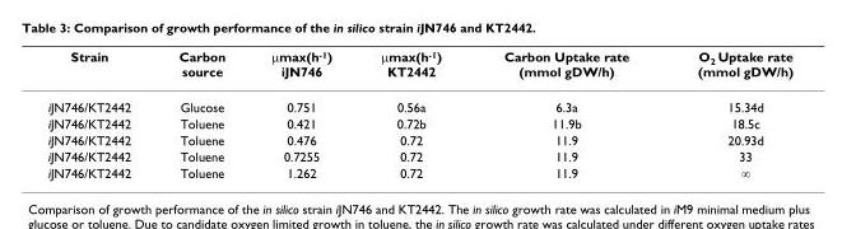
<table><thead><tr><td>Strain</td><td>Carbon source</td><td>μmax(h<sup>-1</sup>) iJN746</td><td>μmax(h<sup>-1</sup>) KT2442</td><td>Carbon Uptake rate (mmol gDW/h)</td><td>O<sub>2</sub> Uptake rate (mmol gDW/h)</td></tr></thead><tbody><tr><td>iJN746/KT2442</td><td>Glucose</td><td>0.751</td><td>0.56a</td><td>6.3a</td><td>15.34d</td></tr><tr><td>iJN746/KT2442</td><td>Toluene</td><td>0.421</td><td>0.72b</td><td>11.9b</td><td>18.5c</td></tr><tr><td>iJN746/KT2442</td><td>Toluene</td><td>0.476</td><td>0.72</td><td>11.9</td><td>20.93d</td></tr><tr><td>iJN746/KT2442</td><td>Toluene</td><td>0.7255</td><td>0.72</td><td>11.9</td><td>33</td></tr><tr><td>iJN746/KT2442</td><td>Toluene</td><td>1.262</td><td>0.72</td><td>11.9</td><td>∞</td></tr></tbody></table>